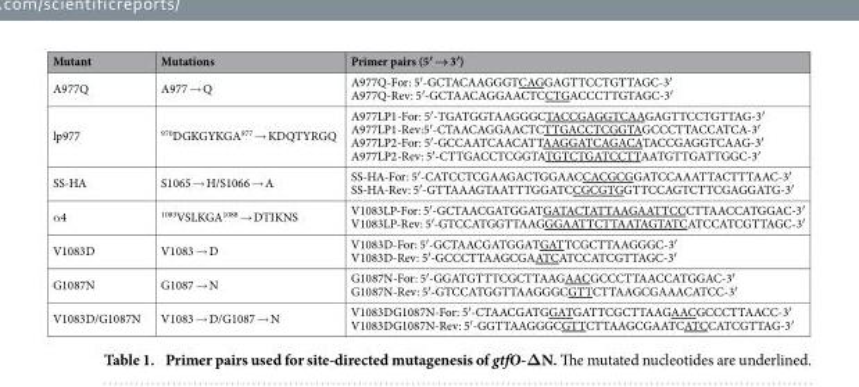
<table><thead><tr><td>Mutant</td><td>Mutations</td><td>Primer pairs (5′ → 3′)</td></tr></thead><tbody><tr><td>A977Q</td><td>A977 → Q</td><td>A977Q-For: 5′ -GCTACAAGGGTCAGGAGTTCCTGTTAGC-3′ A977Q-Rev: 5′ -GCTAACAGGAACTCCTGACCCTTGTAGC-3′</td></tr><tr><td>lp977</td><td><sup>970</sup>DGKGYKGA<sup>977</sup> → KDQTYRGQ</td><td>A977LP1-For: 5′ -TGATGGTAAGGGCTACCGAGGTCAAGAGTTCCTGTTAG-3′ A977LP1-Rev:5′ -CTAACAGGAACTCTTGACCTCGGTAGCCCTTACCATCA-3′ A977LP2-For: 5′ -GCCAATCAACATTAAGGATCAGACATACCGAGGTCAAG-3′ A977LP2-Rev: 5′ -CTTGACCTCGGTATGTCTGATCCTTAATGTTGATTGGC-3′</td></tr><tr><td>SS-HA</td><td>S1065 → H/S1066 → A</td><td>SS-HA-For: 5′ -CATCCTCGAAGACTGGAACCACGCGGATCCAAATTACTTTAAC-3′ SS-HA-Rev: 5′ -GTTAAAGTAATTTGGATCCGCGTGGTTCCAGTCTTCGAGGATG-3′</td></tr><tr><td>α 4</td><td><sup>1083</sup>VSLKGA<sup>1088</sup> → DTIKNS</td><td>V1083LP-For: 5′ -GCTAACGATGGATGATACTATTAAGAATTCCCTTAACCATGGAC-3′ V1083LP-Rev: 5′ -GTCCATGGTTAAGGGAATTCTTAATAGTATCATCCATCGTTAGC-3′</td></tr><tr><td>V1083D</td><td>V1083 → D</td><td>V1083D-For: 5′ -GCTAACGATGGATGATTCGCTTAAGGGC-3′ V1083D-Rev: 5′ -GCCCTTAAGCGAATCATCCATCGTTAGC-3′</td></tr><tr><td>G1087N</td><td>G1087 → N</td><td>G1087N-For: 5′ -GGATGTTTCGCTTAAGAACGCCCTTAACCATGGAC-3′ G1087N-Rev: 5′ -GTCCATGGTTAAGGGCGTTCTTAAGCGAAACATCC-3′</td></tr><tr><td>V1083D/G1087N</td><td>V1083 → D/G1087 → N</td><td>V1083DG1087N-For: 5′ -CTAACGATGGATGATTCGCTTAAGAACGCCCTTAACC-3′ V1083DG1087N-Rev: 5′ -GGTTAAGGGCGTTCTTAAGCGAATCATCCATCGTTAG-3′</td></tr></tbody></table>